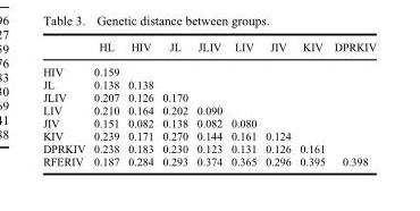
<table><thead><tr><td></td><td>HL</td><td>HIV</td><td>JL</td><td>JLIV</td><td>LIV</td><td>JIV</td><td>KIV</td><td>DPRKIV</td></tr></thead><tbody><tr><td>HIV</td><td>0.159</td><td></td><td></td><td></td><td></td><td></td><td></td><td></td></tr><tr><td>JL</td><td>0.138</td><td>0.138</td><td></td><td></td><td></td><td></td><td></td><td></td></tr><tr><td>JLIV</td><td>0.207</td><td>0.126</td><td>0.170</td><td></td><td></td><td></td><td></td><td></td></tr><tr><td>LIV</td><td>0.210</td><td>0.164</td><td>0.202</td><td>0.090</td><td></td><td></td><td></td><td></td></tr><tr><td>JIV</td><td>0.151</td><td>0.082</td><td>0.138</td><td>0.082</td><td>0.080</td><td></td><td></td><td></td></tr><tr><td>KIV</td><td>0.239</td><td>0.171</td><td>0.270</td><td>0.144</td><td>0.161</td><td>0.124</td><td></td><td></td></tr><tr><td>DPRKIV</td><td>0.238</td><td>0.183</td><td>0.230</td><td>0.123</td><td>0.131</td><td>0.126</td><td>0.161</td><td></td></tr><tr><td>RFERIV</td><td>0.187</td><td>0.284</td><td>0.293</td><td>0.374</td><td>0.365</td><td>0.296</td><td>0.395</td><td>0.398</td></tr></tbody></table>